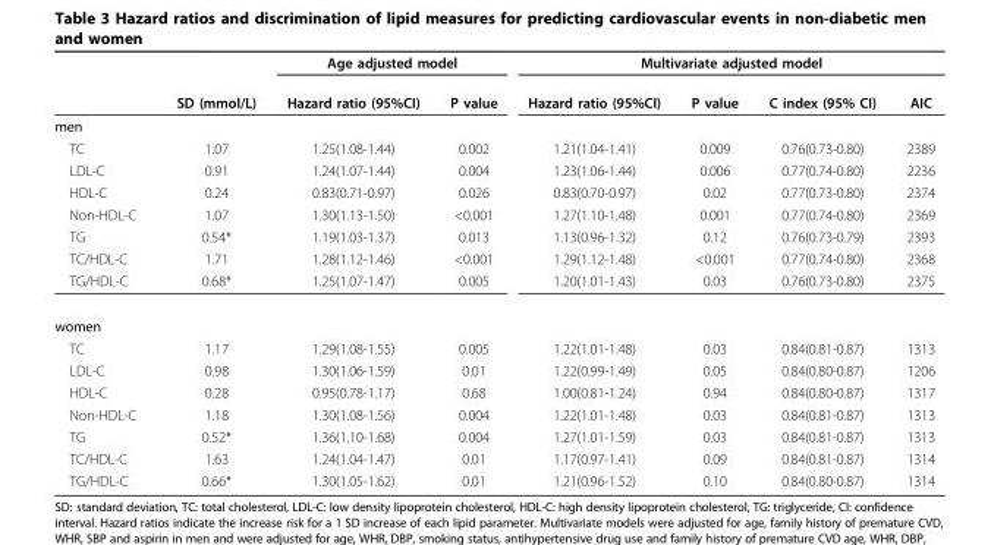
<table><thead><tr><td rowspan="2"></td><td rowspan="2">SD (mmol/L)</td><td colspan="2">Age adjusted model</td><td colspan="4">Multivariate adjusted model</td></tr><tr><td>Hazard ratio (95%CI)</td><td>P value</td><td>Hazard ratio (95%CI)</td><td>P value</td><td>C index (95% CI)</td><td>AIC</td></tr></thead><tbody><tr><td colspan="8">men</td></tr><tr><td>TC</td><td>1.07</td><td>1.25(1.08-1.44)</td><td>0.002</td><td>1.21(1.04-1.41)</td><td>0.009</td><td>0.76(0.73-0.80)</td><td>2389</td></tr><tr><td>LDL-C</td><td>0.91</td><td>1.24(1.07-1.44)</td><td>0.004</td><td>1.23(1.06-1.44)</td><td>0.006</td><td>0.77(0.74-0.80)</td><td>2236</td></tr><tr><td>HDL-C</td><td>0.24</td><td>0.83(0.71-0.97)</td><td>0.026</td><td>0.83(0.70-0.97)</td><td>0.02</td><td>0.77(0.73-0.80)</td><td>2374</td></tr><tr><td>Non-HDL-C</td><td>1.07</td><td>1.30(1.13-1.50)</td><td>&lt;0.001</td><td>1.27(1.10-1.48)</td><td>0.001</td><td>0.77(0.74-0.80)</td><td>2369</td></tr><tr><td>TG</td><td>0.54*</td><td>1.19(1.03-1.37)</td><td>0.013</td><td>1.13(0.96-1.32)</td><td>0.12</td><td>0.76(0.73-0.79)</td><td>2393</td></tr><tr><td>TC/HDL-C</td><td>1.71</td><td>1.28(1.12-1.46)</td><td>&lt;0.001</td><td>1.29(1.12-1.48)</td><td>&lt;0.001</td><td>0.77(0.74-0.80)</td><td>2368</td></tr><tr><td>TG/HDL-C</td><td>0.68*</td><td>1.25(1.07-1.47)</td><td>0.005</td><td>1.20(1.01-1.43)</td><td>0.03</td><td>0.76(0.73-0.80)</td><td>2375</td></tr><tr><td colspan="8">women</td></tr><tr><td>TC</td><td>1.17</td><td>1.29(1.08-1.55)</td><td>0.005</td><td>1.22(1.01-1.48)</td><td>0.03</td><td>0.84(0.81-0.87)</td><td>1313</td></tr><tr><td>LDL-C</td><td>0.98</td><td>1.30(1.06-1.59)</td><td>0.01</td><td>1.22(0.99-1.49)</td><td>0.05</td><td>0.84(0.80-0.87)</td><td>1206</td></tr><tr><td>HDL-C</td><td>0.28</td><td>0.95(0.78-1.17)</td><td>0.68</td><td>1.00(0.81-1.24)</td><td>0.94</td><td>0.84(0.80-0.87)</td><td>1317</td></tr><tr><td>Non-HDL-C</td><td>1.18</td><td>1.30(1.08-1.56)</td><td>0.004</td><td>1.22(1.01-1.48)</td><td>0.03</td><td>0.84(0.81-0.87)</td><td>1313</td></tr><tr><td>TG</td><td>0.52*</td><td>1.36(1.10-1.68)</td><td>0.004</td><td>1.27(1.01-1.59)</td><td>0.03</td><td>0.84(0.81-0.87)</td><td>1313</td></tr><tr><td>TC/HDL-C</td><td>1.63</td><td>1.24(1.04-1.47)</td><td>0.01</td><td>1.17(0.97-1.41)</td><td>0.09</td><td>0.84(0.81-0.87)</td><td>1314</td></tr><tr><td>TG/HDL-C</td><td>0.66*</td><td>1.30(1.05-1.62)</td><td>0.01</td><td>1.21(0.96-1.52)</td><td>0.10</td><td>0.84(0.80-0.87)</td><td>1314</td></tr></tbody></table>